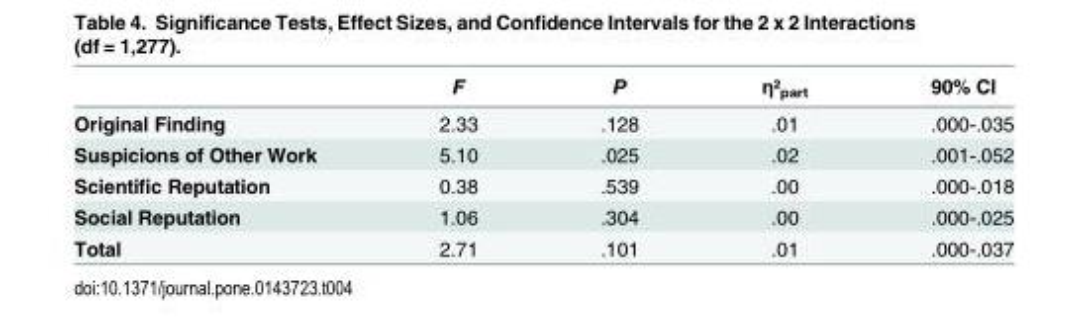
<table><thead><tr><td></td><td>F</td><td>P</td><td>η²<sub>part</sub></td><td>90% CI</td></tr></thead><tbody><tr><td>Original Finding</td><td>2.33</td><td>.128</td><td>.01</td><td>.000-.035</td></tr><tr><td>Suspicions of Other Work</td><td>5.10</td><td>.025</td><td>.02</td><td>.001-.052</td></tr><tr><td>Scientific Reputation</td><td>0.38</td><td>.539</td><td>.00</td><td>.000-.018</td></tr><tr><td>Social Reputation</td><td>1.06</td><td>.304</td><td>.00</td><td>.000-.025</td></tr><tr><td>Total</td><td>2.71</td><td>.101</td><td>.01</td><td>.000-.037</td></tr></tbody></table>